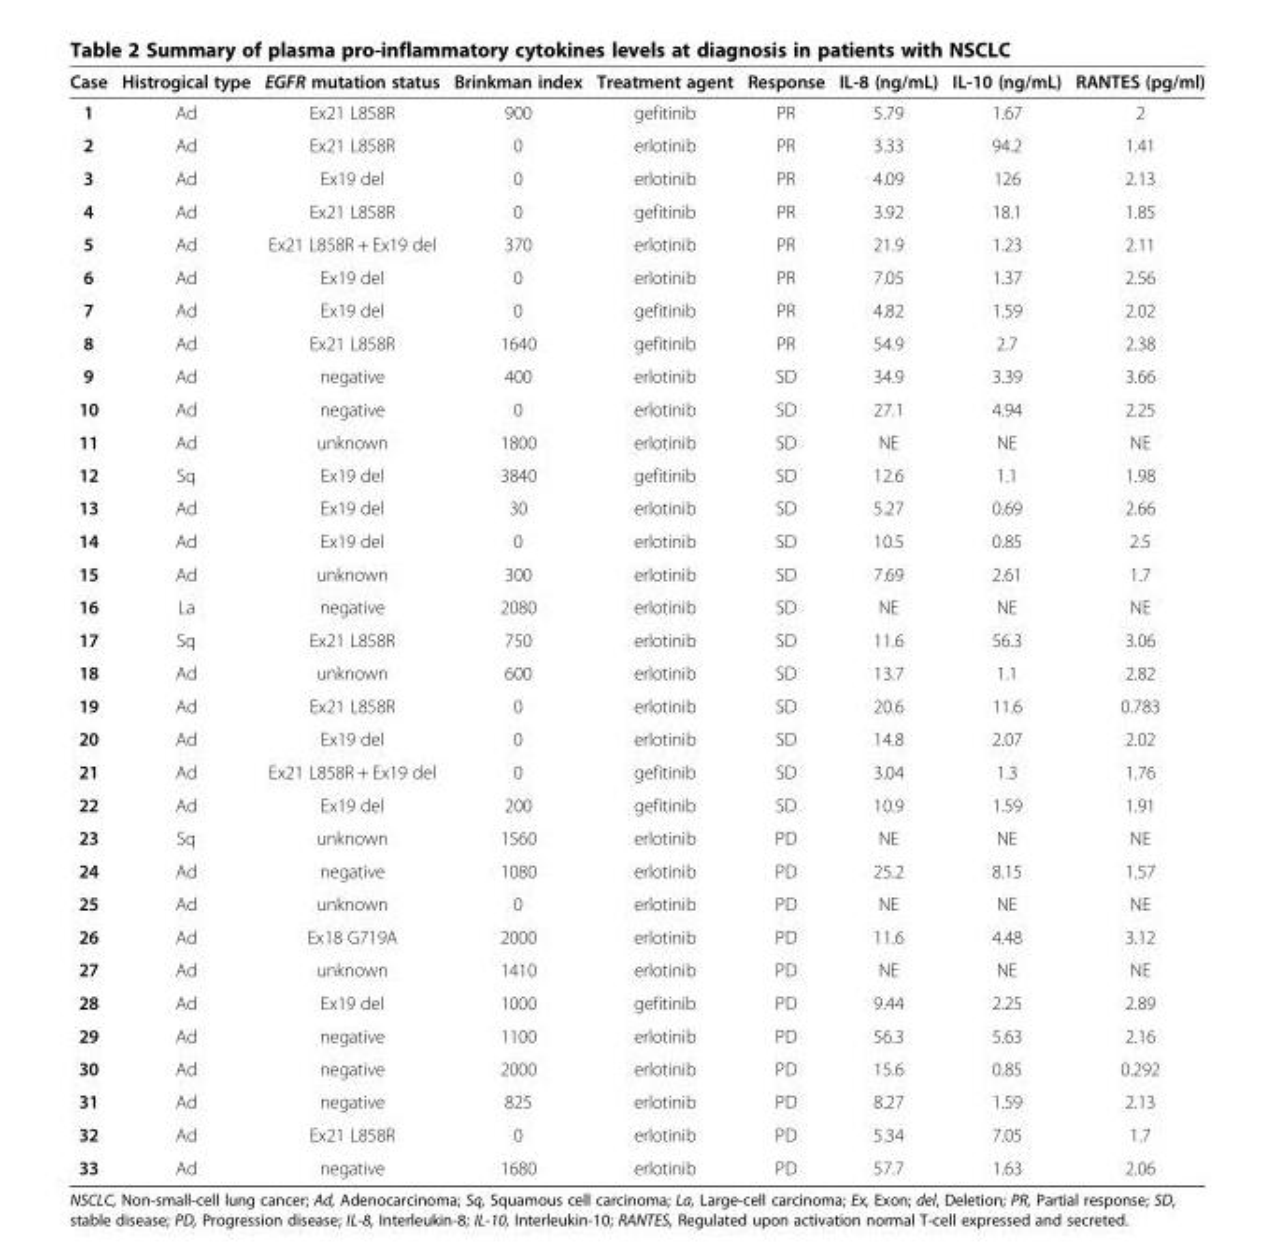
<table><thead><tr><td>Case</td><td>Histrogical type</td><td>EGFR mutation status</td><td>Brinkman index</td><td>Treatment agent</td><td>Response</td><td>IL-8 (ng/mL)</td><td>IL-10 (ng/mL)</td><td>RANTES (pg/ml)</td></tr></thead><tbody><tr><td>1</td><td>Ad</td><td>Ex21 L858R</td><td>900</td><td>gefitinib</td><td>PR</td><td>5.79</td><td>1.67</td><td>2</td></tr><tr><td>2</td><td>Ad</td><td>Ex21 L858R</td><td>0</td><td>erlotinib</td><td>PR</td><td>3.33</td><td>94.2</td><td>1.41</td></tr><tr><td>3</td><td>Ad</td><td>Ex19 del</td><td>0</td><td>erlotinib</td><td>PR</td><td>4.09</td><td>126</td><td>2.13</td></tr><tr><td>4</td><td>Ad</td><td>Ex21 L858R</td><td>0</td><td>gefitinib</td><td>PR</td><td>3.92</td><td>18.1</td><td>1.85</td></tr><tr><td>5</td><td>Ad</td><td>Ex21 L858R + Ex19 del</td><td>370</td><td>erlotinib</td><td>PR</td><td>21.9</td><td>1.23</td><td>2.11</td></tr><tr><td>6</td><td>Ad</td><td>Ex19 del</td><td>0</td><td>erlotinib</td><td>PR</td><td>7.05</td><td>1.37</td><td>2.56</td></tr><tr><td>7</td><td>Ad</td><td>Ex19 del</td><td>0</td><td>gefitinib</td><td>PR</td><td>4.82</td><td>1.59</td><td>2.02</td></tr><tr><td>8</td><td>Ad</td><td>Ex21 L858R</td><td>1640</td><td>gefitinib</td><td>PR</td><td>54.9</td><td>2.7</td><td>2.38</td></tr><tr><td>9</td><td>Ad</td><td>negative</td><td>400</td><td>erlotinib</td><td>SD</td><td>34.9</td><td>3.39</td><td>3.66</td></tr><tr><td>10</td><td>Ad</td><td>negative</td><td>0</td><td>erlotinib</td><td>SD</td><td>27.1</td><td>4.94</td><td>2.25</td></tr><tr><td>11</td><td>Ad</td><td>unknown</td><td>1800</td><td>erlotinib</td><td>SD</td><td>NE</td><td>NE</td><td>NE</td></tr><tr><td>12</td><td>Sq</td><td>Ex19 del</td><td>3840</td><td>gefitinib</td><td>SD</td><td>12.6</td><td>1.1</td><td>1.98</td></tr><tr><td>13</td><td>Ad</td><td>Ex19 del</td><td>30</td><td>erlotinib</td><td>SD</td><td>5.27</td><td>0.69</td><td>2.66</td></tr><tr><td>14</td><td>Ad</td><td>Ex19 del</td><td>0</td><td>erlotinib</td><td>SD</td><td>10.5</td><td>0.85</td><td>2.5</td></tr><tr><td>15</td><td>Ad</td><td>unknown</td><td>300</td><td>erlotinib</td><td>SD</td><td>7.69</td><td>2.61</td><td>1.7</td></tr><tr><td>16</td><td>La</td><td>negative</td><td>2080</td><td>erlotinib</td><td>SD</td><td>NE</td><td>NE</td><td>NE</td></tr><tr><td>17</td><td>Sq</td><td>Ex21 L858R</td><td>750</td><td>erlotinib</td><td>SD</td><td>11.6</td><td>56.3</td><td>3.06</td></tr><tr><td>18</td><td>Ad</td><td>unknown</td><td>600</td><td>erlotinib</td><td>SD</td><td>13.7</td><td>1.1</td><td>2.82</td></tr><tr><td>19</td><td>Ad</td><td>Ex21 L858R</td><td>0</td><td>erlotinib</td><td>SD</td><td>20.6</td><td>11.6</td><td>0.783</td></tr><tr><td>20</td><td>Ad</td><td>Ex19 del</td><td>0</td><td>erlotinib</td><td>SD</td><td>14.8</td><td>2.07</td><td>2.02</td></tr><tr><td>21</td><td>Ad</td><td>Ex21 L858R + Ex19 del</td><td>0</td><td>gefitinib</td><td>SD</td><td>3.04</td><td>1.3</td><td>1.76</td></tr><tr><td>22</td><td>Ad</td><td>Ex19 del</td><td>200</td><td>gefitinib</td><td>SD</td><td>10.9</td><td>1.59</td><td>1.91</td></tr><tr><td>23</td><td>Sq</td><td>unknown</td><td>1560</td><td>erlotinib</td><td>PD</td><td>NE</td><td>NE</td><td>NE</td></tr><tr><td>24</td><td>Ad</td><td>negative</td><td>1080</td><td>erlotinib</td><td>PD</td><td>25.2</td><td>8.15</td><td>1.57</td></tr><tr><td>25</td><td>Ad</td><td>unknown</td><td>0</td><td>erlotinib</td><td>PD</td><td>NE</td><td>NE</td><td>NE</td></tr><tr><td>26</td><td>Ad</td><td>Ex18 G719A</td><td>2000</td><td>erlotinib</td><td>PD</td><td>11.6</td><td>4.48</td><td>3.12</td></tr><tr><td>27</td><td>Ad</td><td>unknown</td><td>1410</td><td>erlotinib</td><td>PD</td><td>NE</td><td>NE</td><td>NE</td></tr><tr><td>28</td><td>Ad</td><td>Ex19 del</td><td>1000</td><td>gefitinib</td><td>PD</td><td>9.44</td><td>2.25</td><td>2.89</td></tr><tr><td>29</td><td>Ad</td><td>negative</td><td>1100</td><td>erlotinib</td><td>PD</td><td>56.3</td><td>5.63</td><td>2.16</td></tr><tr><td>30</td><td>Ad</td><td>negative</td><td>2000</td><td>erlotinib</td><td>PD</td><td>15.6</td><td>0.85</td><td>0.292</td></tr><tr><td>31</td><td>Ad</td><td>negative</td><td>825</td><td>erlotinib</td><td>PD</td><td>8.27</td><td>1.59</td><td>2.13</td></tr><tr><td>32</td><td>Ad</td><td>Ex21 L858R</td><td>0</td><td>erlotinib</td><td>PD</td><td>5.34</td><td>7.05</td><td>1.7</td></tr><tr><td>33</td><td>Ad</td><td>negative</td><td>1680</td><td>erlotinib</td><td>PD</td><td>57.7</td><td>1.63</td><td>2.06</td></tr></tbody></table>